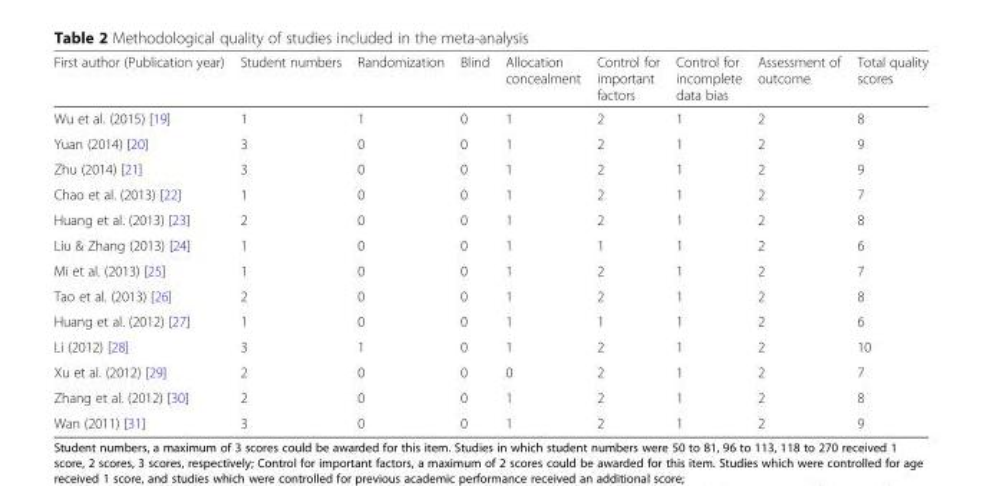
<table><thead><tr><td>First author (Publication year)</td><td>Student numbers</td><td>Randomization</td><td>Blind</td><td>Allocation concealment</td><td>Control for important factors</td><td>Control for incomplete data bias</td><td>Assessment of outcome</td><td>Total quality scores</td></tr></thead><tbody><tr><td>Wu et al. (2015) [19]</td><td>1</td><td>1</td><td>0</td><td>1</td><td>2</td><td>1</td><td>2</td><td>8</td></tr><tr><td>Yuan (2014) [20]</td><td>3</td><td>0</td><td>0</td><td>1</td><td>2</td><td>1</td><td>2</td><td>9</td></tr><tr><td>Zhu (2014) [21]</td><td>3</td><td>0</td><td>0</td><td>1</td><td>2</td><td>1</td><td>2</td><td>9</td></tr><tr><td>Chao et al. (2013) [22]</td><td>1</td><td>0</td><td>0</td><td>1</td><td>2</td><td>1</td><td>2</td><td>7</td></tr><tr><td>Huang et al. (2013) [23]</td><td>2</td><td>0</td><td>0</td><td>1</td><td>2</td><td>1</td><td>2</td><td>8</td></tr><tr><td>Liu &amp; Zhang (2013) [24]</td><td>1</td><td>0</td><td>0</td><td>1</td><td>1</td><td>1</td><td>2</td><td>6</td></tr><tr><td>Mi et al. (2013) [25]</td><td>1</td><td>0</td><td>0</td><td>1</td><td>2</td><td>1</td><td>2</td><td>7</td></tr><tr><td>Tao et al. (2013) [26]</td><td>2</td><td>0</td><td>0</td><td>1</td><td>2</td><td>1</td><td>2</td><td>8</td></tr><tr><td>Huang et al. (2012) [27]</td><td>1</td><td>0</td><td>0</td><td>1</td><td>1</td><td>1</td><td>2</td><td>6</td></tr><tr><td>Li (2012) [28]</td><td>3</td><td>1</td><td>0</td><td>1</td><td>2</td><td>1</td><td>2</td><td>10</td></tr><tr><td>Xu et al. (2012) [29]</td><td>2</td><td>0</td><td>0</td><td>0</td><td>2</td><td>1</td><td>2</td><td>7</td></tr><tr><td>Zhang et al. (2012) [30]</td><td>2</td><td>0</td><td>0</td><td>1</td><td>2</td><td>1</td><td>2</td><td>8</td></tr><tr><td>Wan (2011) [31]</td><td>3</td><td>0</td><td>0</td><td>1</td><td>2</td><td>1</td><td>2</td><td>9</td></tr></tbody></table>